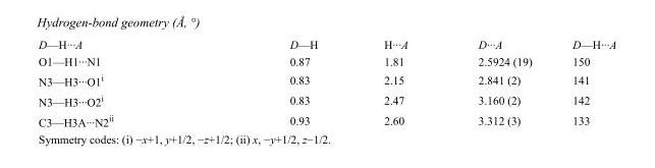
<table><tbody><tr><td>D—H···A</td><td>D—H</td><td>H···A</td><td>D···A</td><td>D—H···A</td></tr><tr><td>O1—H1···N1</td><td>0.87</td><td>1.81</td><td>2.5924 (19)</td><td>150</td></tr><tr><td>N3—H3···O1<sup>i</sup></td><td>0.83</td><td>2.15</td><td>2.841 (2)</td><td>141</td></tr><tr><td>N3—H3···O2<sup>i</sup></td><td>0.83</td><td>2.47</td><td>3.160 (2)</td><td>142</td></tr><tr><td>C3—H3A···N2<sup>ii</sup></td><td>0.93</td><td>2.60</td><td>3.312 (3)</td><td>133</td></tr></tbody></table>